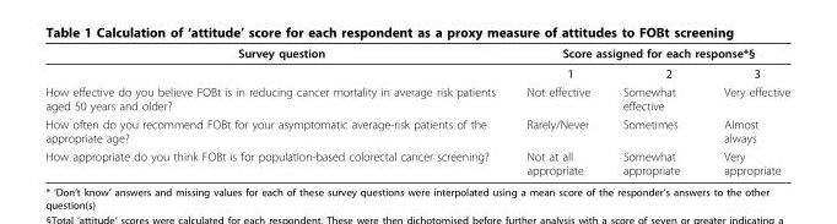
<table><thead><tr><td rowspan="2">Survey question</td><td colspan="3">Score assigned for each response*§</td></tr><tr><td>1</td><td>2</td><td>3</td></tr></thead><tbody><tr><td>How effective do you believe FOBt is in reducing cancer mortality in average risk patients aged 50 years and older?</td><td>Not effective</td><td>Somewhat effective</td><td>Very effective</td></tr><tr><td>How often do you recommend FOBt for your asymptomatic average-risk patients of the appropriate age?</td><td>Rarely/Never</td><td>Sometimes</td><td>Almost always</td></tr><tr><td>How appropriate do you think FOBt is for population-based colorectal cancer screening?</td><td>Not at all appropriate</td><td>Somewhat appropriate</td><td>Very appropriate</td></tr></tbody></table>